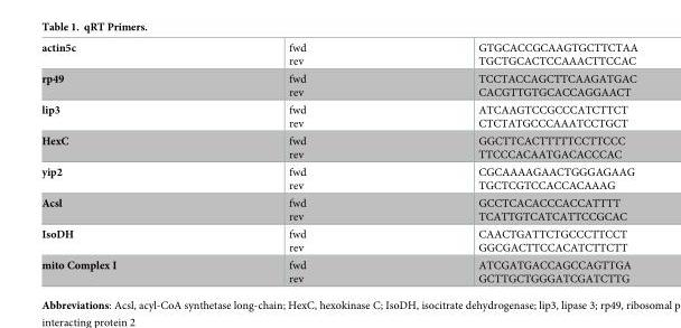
<table><tbody><tr><td>actin5c</td><td>fwd rev</td><td>GTGCACCGCAAGTGCTTCTAA TGCTGCACTCCAAACTTCCAC</td></tr><tr><td>rp49</td><td>fwd rev</td><td>TCCTACCAGCTTCAAGATGAC CACGTTGTGCACCAGGAACT</td></tr><tr><td>lip3</td><td>fwd rev</td><td>ATCAAGTCCGCCCATCTTCT CTCTATGCCCAAATCCTGCT</td></tr><tr><td>HexC</td><td>fwd rev</td><td>GGCTTCACTTTTTCCTTCCC TTCCCACAATGACACCCAC</td></tr><tr><td>yip2</td><td>fwd rev</td><td>CGCAAAAGAACTGGGAGAAG TGCTCGTCCACCACAAAG</td></tr><tr><td>Acsl</td><td>fwd rev</td><td>GCCTCACACCCACCATTTT TCATTGTCATCATTCCGCAC</td></tr><tr><td>IsoDH</td><td>fwd rev</td><td>CAACTGATTCTGCCCTTCCT GGCGACTTCCACATCTTCTT</td></tr><tr><td>mito Complex I</td><td>fwd rev</td><td>ATCGATGACCAGCCAGTTGA GCTTGCTGGGATCGATCTTG</td></tr></tbody></table>